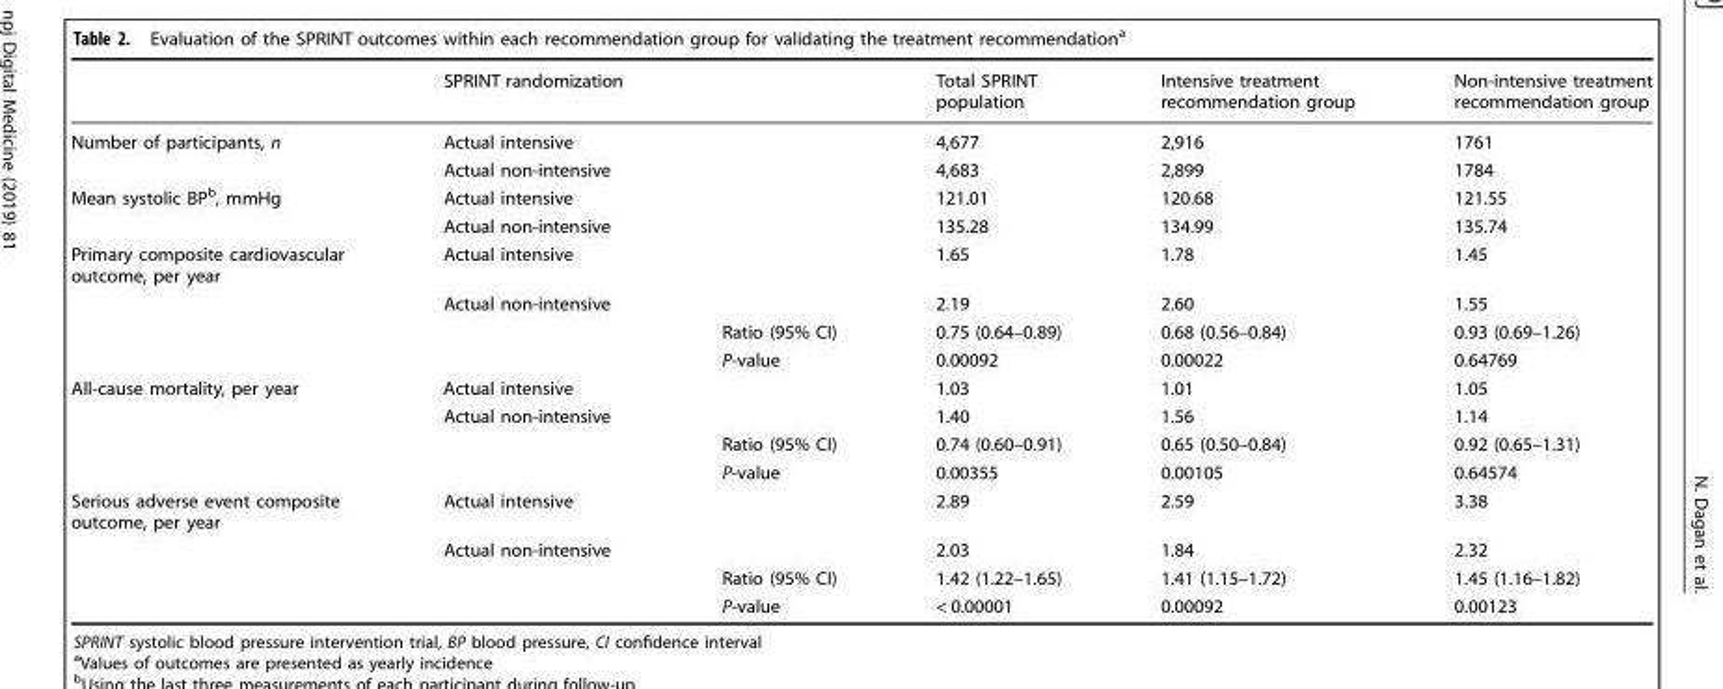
<table><thead><tr><td></td><td>SPRINT randomization</td><td></td><td>Total SPRINT population</td><td>Intensive treatment recommendation group</td><td>Non-intensive treatment recommendation group</td></tr></thead><tbody><tr><td rowspan="2">Number of participants, n</td><td>Actual intensive</td><td></td><td>4,677</td><td>2,916</td><td>1761</td></tr><tr><td>Actual non-intensive</td><td></td><td>4,683</td><td>2,899</td><td>1784</td></tr><tr><td rowspan="2">Mean systolic BP<sup>b</sup>, mmHg</td><td>Actual intensive</td><td></td><td>121.01</td><td>120.68</td><td>121.55</td></tr><tr><td>Actual non-intensive</td><td></td><td>135.28</td><td>134.99</td><td>135.74</td></tr><tr><td rowspan="4">Primary composite cardiovascular outcome, per year</td><td>Actual intensive</td><td></td><td>1.65</td><td>1.78</td><td>1.45</td></tr><tr><td>Actual non-intensive</td><td></td><td>2.19</td><td>2.60</td><td>1.55</td></tr><tr><td></td><td>Ratio (95% CI)</td><td>0.75 (0.64–0.89)</td><td>0.68 (0.56–0.84)</td><td>0.93 (0.69–1.26)</td></tr><tr><td></td><td>P-value</td><td>0.00092</td><td>0.00022</td><td>0.64769</td></tr><tr><td rowspan="4">All-cause mortality, per year</td><td>Actual intensive</td><td></td><td>1.03</td><td>1.01</td><td>1.05</td></tr><tr><td>Actual non-intensive</td><td></td><td>1.40</td><td>1.56</td><td>1.14</td></tr><tr><td></td><td>Ratio (95% CI)</td><td>0.74 (0.60–0.91)</td><td>0.65 (0.50–0.84)</td><td>0.92 (0.65–1.31)</td></tr><tr><td></td><td>P-value</td><td>0.00355</td><td>0.00105</td><td>0.64574</td></tr><tr><td rowspan="4">Serious adverse event composite outcome, per year</td><td>Actual intensive</td><td></td><td>2.89</td><td>2.59</td><td>3.38</td></tr><tr><td>Actual non-intensive</td><td></td><td>2.03</td><td>1.84</td><td>2.32</td></tr><tr><td></td><td>Ratio (95% CI)</td><td>1.42 (1.22–1.65)</td><td>1.41 (1.15–1.72)</td><td>1.45 (1.16–1.82)</td></tr><tr><td></td><td>P-value</td><td>&lt; 0.00001</td><td>0.00092</td><td>0.00123</td></tr></tbody></table>